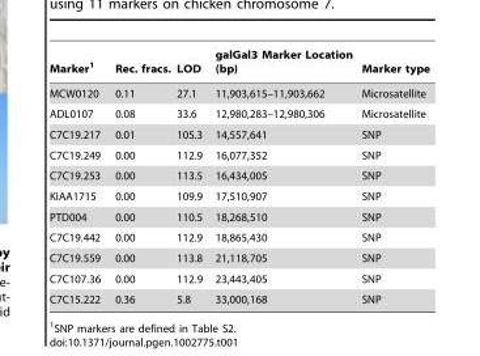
<table><thead><tr><td>Marker<sup>1</sup></td><td>Rec. fracs.</td><td>LOD</td><td>galGal3 Marker Location (bp)</td><td>Marker type</td></tr></thead><tbody><tr><td>MCW0120</td><td>0.11</td><td>27.1</td><td>11,903,615–11,903,662</td><td>Microsatellite</td></tr><tr><td>ADL0107</td><td>0.08</td><td>33.6</td><td>12,980,283–12,980,306</td><td>Microsatellite</td></tr><tr><td>C7C19.217</td><td>0.01</td><td>105.3</td><td>14,557,641</td><td>SNP</td></tr><tr><td>C7C19.249</td><td>0.00</td><td>112.9</td><td>16,077,352</td><td>SNP</td></tr><tr><td>C7C19.253</td><td>0.00</td><td>113.5</td><td>16,434,005</td><td>SNP</td></tr><tr><td>KIAA1715</td><td>0.00</td><td>109.9</td><td>17,510,907</td><td>SNP</td></tr><tr><td>PTD004</td><td>0.00</td><td>110.5</td><td>18,268,510</td><td>SNP</td></tr><tr><td>C7C19.442</td><td>0.00</td><td>112.9</td><td>18,865,430</td><td>SNP</td></tr><tr><td>C7C19.559</td><td>0.00</td><td>113.8</td><td>21,118,705</td><td>SNP</td></tr><tr><td>C7C107.36</td><td>0.00</td><td>112.9</td><td>23,443,405</td><td>SNP</td></tr><tr><td>C7C15.222</td><td>0.36</td><td>5.8</td><td>33,000,168</td><td>SNP</td></tr></tbody></table>